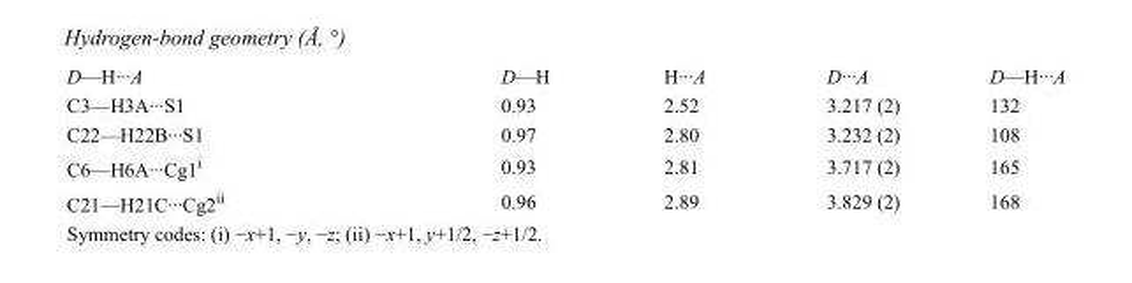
<table><tbody><tr><td>D—H···A</td><td>D—H</td><td>H···A</td><td>D···A</td><td>D—H···A</td></tr><tr><td>C3—H3A···S1</td><td>0.93</td><td>2.52</td><td>3.217 (2)</td><td>132</td></tr><tr><td>C22—H22B···S1</td><td>0.97</td><td>2.80</td><td>3.232 (2)</td><td>108</td></tr><tr><td>C6—H6A···Cg1<sup>i</sup></td><td>0.93</td><td>2.81</td><td>3.717 (2)</td><td>165</td></tr><tr><td>C21—H21C···Cg2<sup>ii</sup></td><td>0.96</td><td>2.89</td><td>3.829 (2)</td><td>168</td></tr></tbody></table>